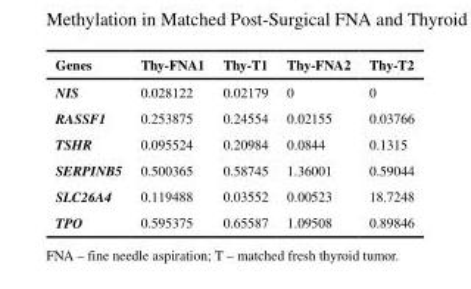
<table><thead><tr><td>Genes</td><td>Thy-FNA1</td><td>Thy-T1</td><td>Thy-FNA2</td><td>Thy-T2</td></tr></thead><tbody><tr><td>NIS</td><td>0.028122</td><td>0.02179</td><td>0</td><td>0</td></tr><tr><td>RASSF1</td><td>0.253875</td><td>0.24554</td><td>0.02155</td><td>0.03766</td></tr><tr><td>TSHR</td><td>0.095524</td><td>0.20984</td><td>0.0844</td><td>0.1315</td></tr><tr><td>SERPINB5</td><td>0.500365</td><td>0.58745</td><td>1.36001</td><td>0.59044</td></tr><tr><td>SLC26A4</td><td>0.119488</td><td>0.03552</td><td>0.00523</td><td>18.7248</td></tr><tr><td>TPO</td><td>0.595375</td><td>0.65587</td><td>1.09508</td><td>0.89846</td></tr></tbody></table>